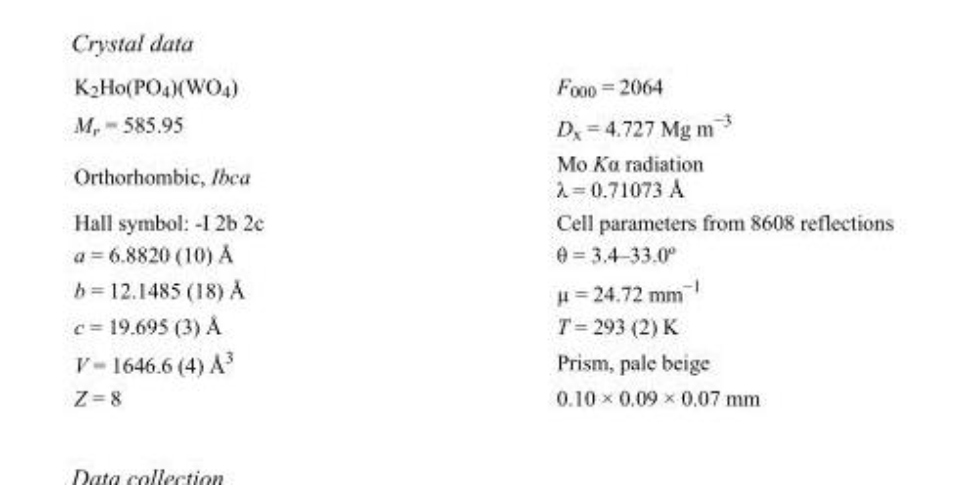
<table><tbody><tr><td>K<sub>2</sub>Ho(PO<sub>4</sub>)(WO<sub>4</sub>)</td><td>F000 = 2064</td></tr><tr><td>M<sub>r</sub> = 585.95</td><td>D<sub>x</sub> = 4.727 Mg m<sup>−3</sup></td></tr><tr><td>Orthorhombic, Ibca</td><td>Mo Kα radiation λ = 0.71073 Å</td></tr><tr><td>Hall symbol: -I 2b 2c</td><td>Cell parameters from 8608 reflections</td></tr><tr><td>a = 6.8820 (10) Å</td><td>θ = 3.4–33.0º</td></tr><tr><td>b = 12.1485 (18) Å</td><td>µ = 24.72 mm<sup>−1</sup></td></tr><tr><td>c = 19.695 (3) Å</td><td>T = 293 (2) K</td></tr><tr><td>V = 1646.6 (4) Å<sup>3</sup></td><td>Prism, pale beige</td></tr><tr><td>Z = 8</td><td>0.10 × 0.09 × 0.07 mm</td></tr></tbody></table>